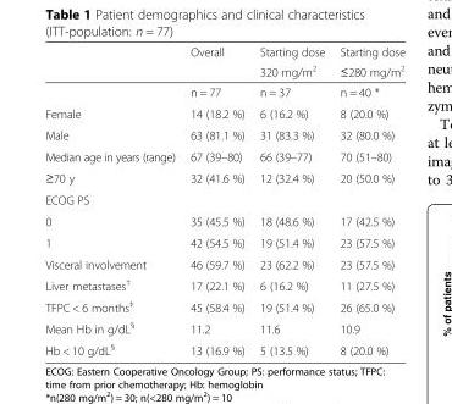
<table><thead><tr><td rowspan="2"></td><td rowspan="2">Overall</td><td rowspan="2">Starting dose 320 mg/m<sup>2</sup></td><td rowspan="2">Starting dose ≤280 mg/m<sup>2</sup></td></tr><tr></tr></thead><tbody><tr><td></td><td>n = 77</td><td>n = 37</td><td>n = 40 *</td></tr><tr><td>Female</td><td>14 (18.2 %)</td><td>6 (16.2 %)</td><td>8 (20.0 %)</td></tr><tr><td>Male</td><td>63 (81.1 %)</td><td>31 (83.3 %)</td><td>32 (80.0 %)</td></tr><tr><td>Median age in years (range)</td><td>67 (39–80)</td><td>66 (39–77)</td><td>70 (51–80)</td></tr><tr><td>≥70 y</td><td>32 (41.6 %)</td><td>12 (32.4 %)</td><td>20 (50.0 %)</td></tr><tr><td colspan="4">ECOG PS</td></tr><tr><td>0</td><td>35 (45.5 %)</td><td>18 (48.6 %)</td><td>17 (42.5 %)</td></tr><tr><td>1</td><td>42 (54.5 %)</td><td>19 (51.4 %)</td><td>23 (57.5 %)</td></tr><tr><td>Visceral involvement</td><td>46 (59.7 %)</td><td>23 (62.2 %)</td><td>23 (57.5 %)</td></tr><tr><td>Liver metastases<sup>†</sup></td><td>17 (22.1 %)</td><td>6 (16.2 %)</td><td>11 (27.5 %)</td></tr><tr><td>TFPC &lt; 6 months<sup>‡</sup></td><td>45 (58.4 %)</td><td>19 (51.4 %)</td><td>26 (65.0 %)</td></tr><tr><td>Mean Hb in g/dL<sup>§</sup></td><td>11.2</td><td>11.6</td><td>10.9</td></tr><tr><td>Hb &lt; 10 g/dL<sup>§</sup></td><td>13 (16.9 %)</td><td>5 (13.5 %)</td><td>8 (20.0 %)</td></tr></tbody></table>